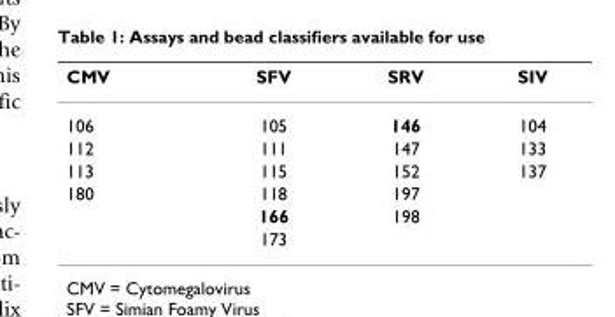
<table><thead><tr><td>CMV</td><td>SFV</td><td>SRV</td><td>SIV</td></tr></thead><tbody><tr><td>106</td><td>105</td><td>146</td><td>104</td></tr><tr><td>112</td><td>111</td><td>147</td><td>133</td></tr><tr><td>113</td><td>115</td><td>152</td><td>137</td></tr><tr><td rowspan="3">180</td><td>118</td><td>197</td><td></td></tr><tr><td>166</td><td>198</td><td></td></tr><tr><td>173</td><td></td><td></td></tr></tbody></table>